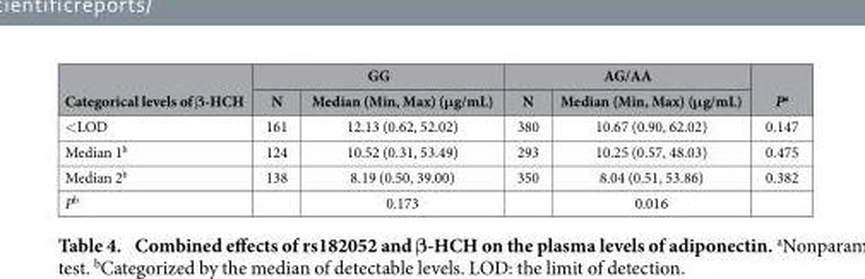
<table><thead><tr><td rowspan="2">Categorical levels of β-HCH</td><td colspan="2">GG</td><td colspan="2">AG/AA</td><td rowspan="2">P<sup>a</sup></td></tr><tr><td>N</td><td>Median (Min, Max) (μg/mL)</td><td>N</td><td>Median (Min, Max) (μg/mL)</td></tr></thead><tbody><tr><td>&lt; LOD</td><td>161</td><td>12.13 (0.62, 52.02)</td><td>380</td><td>10.67 (0.90, 62.02)</td><td>0.147</td></tr><tr><td>Median 1<sup>b</sup></td><td>124</td><td>10.52 (0.31, 53.49)</td><td>293</td><td>10.25 (0.57, 48.03)</td><td>0.475</td></tr><tr><td>Median 2<sup>b</sup></td><td>138</td><td>8.19 (0.50, 39.00)</td><td>350</td><td>8.04 (0.51, 53.86)</td><td>0.382</td></tr><tr><td>P<sup>b</sup></td><td></td><td>0.173</td><td></td><td>0.016</td><td></td></tr></tbody></table>